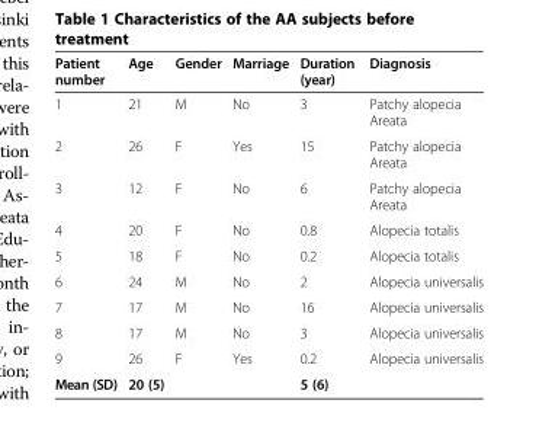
<table><thead><tr><td>Patient number</td><td>Age</td><td>Gender</td><td>Marriage</td><td>Duration (year)</td><td>Diagnosis</td></tr></thead><tbody><tr><td>1</td><td>21</td><td>M</td><td>No</td><td>3</td><td>Patchy alopecia Areata</td></tr><tr><td>2</td><td>26</td><td>F</td><td>Yes</td><td>15</td><td>Patchy alopecia Areata</td></tr><tr><td>3</td><td>12</td><td>F</td><td>No</td><td>6</td><td>Patchy alopecia Areata</td></tr><tr><td>4</td><td>20</td><td>F</td><td>No</td><td>0.8</td><td>Alopecia totalis</td></tr><tr><td>5</td><td>18</td><td>F</td><td>No</td><td>0.2</td><td>Alopecia totalis</td></tr><tr><td>6</td><td>24</td><td>M</td><td>No</td><td>2</td><td>Alopecia universalis</td></tr><tr><td>7</td><td>17</td><td>M</td><td>No</td><td>16</td><td>Alopecia universalis</td></tr><tr><td>8</td><td>17</td><td>M</td><td>No</td><td>3</td><td>Alopecia universalis</td></tr><tr><td>9</td><td>26</td><td>F</td><td>Yes</td><td>0.2</td><td>Alopecia universalis</td></tr><tr><td>Mean (SD)</td><td>20 (5)</td><td></td><td></td><td>5 (6)</td><td></td></tr></tbody></table>